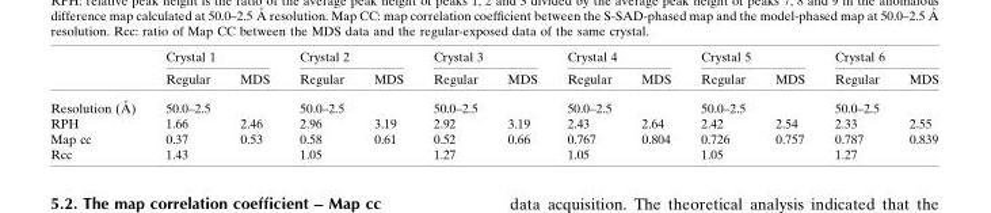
<table><thead><tr><td rowspan="2"></td><td colspan="2">Crystal 1</td><td colspan="2">Crystal 2</td><td colspan="2">Crystal 3</td><td colspan="2">Crystal 4</td><td colspan="2">Crystal 5</td><td colspan="2">Crystal 6</td></tr><tr><td>Regular</td><td>MDS</td><td>Regular</td><td>MDS</td><td>Regular</td><td>MDS</td><td>Regular</td><td>MDS</td><td>Regular</td><td>MDS</td><td>Regular</td><td>MDS</td></tr></thead><tbody><tr><td>Resolution (A˚ )</td><td colspan="2">50.0–2.5</td><td colspan="2">50.0–2.5</td><td colspan="2">50.0–2.5</td><td colspan="2">50.0–2.5</td><td colspan="2">50.0–2.5</td><td colspan="2">50.0–2.5</td></tr><tr><td>RPH</td><td>1.66</td><td>2.46</td><td>2.96</td><td>3.19</td><td>2.92</td><td>3.19</td><td>2.43</td><td>2.64</td><td>2.42</td><td>2.54</td><td>2.33</td><td>2.55</td></tr><tr><td>Map cc</td><td>0.37</td><td>0.53</td><td>0.58</td><td>0.61</td><td>0.52</td><td>0.66</td><td>0.767</td><td>0.804</td><td>0.726</td><td>0.757</td><td>0.787</td><td>0.839</td></tr><tr><td>Rcc</td><td colspan="2">1.43</td><td colspan="2">1.05</td><td colspan="2">1.27</td><td colspan="2">1.05</td><td colspan="2">1.05</td><td colspan="2">1.27</td></tr></tbody></table>